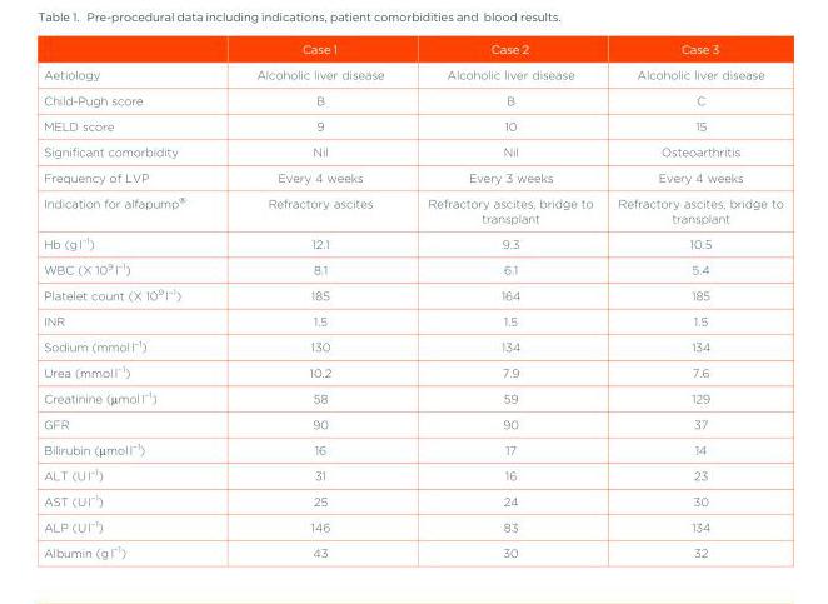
<table><thead><tr><td></td><td>Case 1</td><td>Case 2</td><td>Case 3</td></tr></thead><tbody><tr><td>Aetiology</td><td>Alcoholic liver disease</td><td>Alcoholic liver disease</td><td>Alcoholic liver disease</td></tr><tr><td>Child-Pugh score</td><td>B</td><td>B</td><td>C</td></tr><tr><td>MELD score</td><td>9</td><td>10</td><td>15</td></tr><tr><td>Significant comorbidity</td><td>Nil</td><td>Nil</td><td>Osteoarthritis</td></tr><tr><td>Frequency of LVP</td><td>Every 4 weeks</td><td>Every 3 weeks</td><td>Every 4 weeks</td></tr><tr><td>Indication for alfapump<sup>®</sup></td><td>Refractory ascites</td><td>Refractory ascites, bridge to transplant</td><td>Refractory ascites, bridge to transplant</td></tr><tr><td>Hb (g l<sup>–1</sup>)</td><td>12.1</td><td>9.3</td><td>10.5</td></tr><tr><td>WBC (X 10<sup>9</sup> l<sup>–1</sup>)</td><td>8.1</td><td>6.1</td><td>5.4</td></tr><tr><td>Platelet count (X 10<sup>9</sup> l<sup>–1</sup>)</td><td>185</td><td>164</td><td>185</td></tr><tr><td>INR</td><td>1.5</td><td>1.5</td><td>1.5</td></tr><tr><td>Sodium (mmol l<sup>–1</sup>)</td><td>130</td><td>134</td><td>134</td></tr><tr><td>Urea (mmol l<sup>–1</sup>)</td><td>10.2</td><td>7.9</td><td>7.6</td></tr><tr><td>Creatinine (μmol l<sup>–1</sup>)</td><td>58</td><td>59</td><td>129</td></tr><tr><td>GFR</td><td>90</td><td>90</td><td>37</td></tr><tr><td>Bilirubin (μmol l<sup>–1</sup>)</td><td>16</td><td>17</td><td>14</td></tr><tr><td>ALT (U l<sup>–1</sup>)</td><td>31</td><td>16</td><td>23</td></tr><tr><td>AST (U l<sup>–1</sup>)</td><td>25</td><td>24</td><td>30</td></tr><tr><td>ALP (U l<sup>–1</sup>)</td><td>146</td><td>83</td><td>134</td></tr><tr><td>Albumin (g l<sup>–1</sup>)</td><td>43</td><td>30</td><td>32</td></tr></tbody></table>